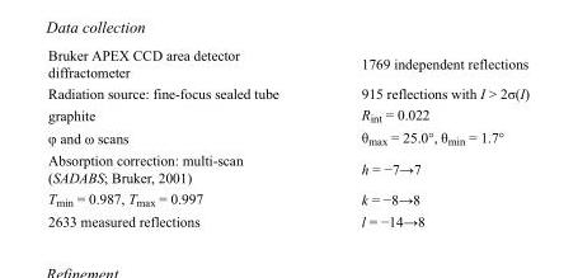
<table><tbody><tr><td>Bruker APEX CCD area detector diffractometer</td><td>1769 independent reflections</td></tr><tr><td>Radiation source: fine-focus sealed tube</td><td>915 reflections with I &gt; 2σ(I)</td></tr><tr><td>graphite</td><td>R<sub>int</sub> = 0.022</td></tr><tr><td>φ and ω scans</td><td>θ<sub>max</sub> = 25.0°, θ<sub>min</sub> = 1.7°</td></tr><tr><td>Absorption correction: multi-scan (SADABS; Bruker, 2001)</td><td>h = −7→7</td></tr><tr><td>T<sub>min</sub> = 0.987, T<sub>max</sub> = 0.997</td><td>k = −8→8</td></tr><tr><td>2633 measured reflections</td><td>l = −14→8</td></tr></tbody></table>